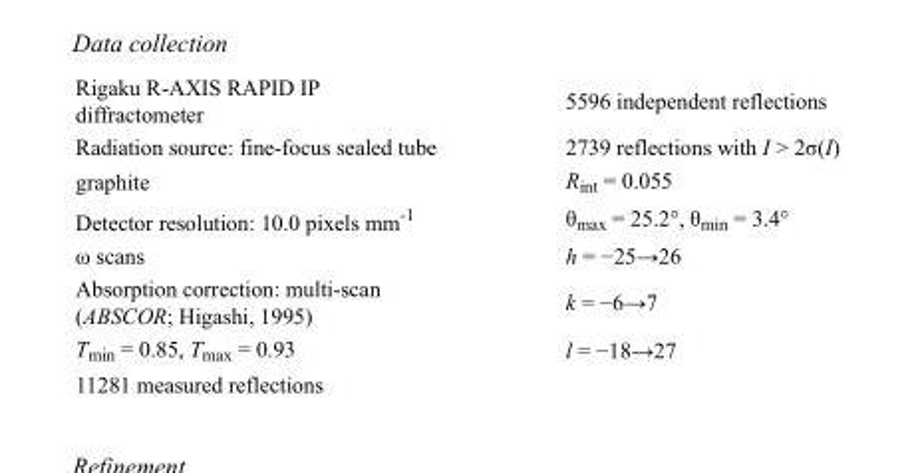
<table><tbody><tr><td>Rigaku R-AXIS RAPID IP diffractometer</td><td>5596 independent reflections</td></tr><tr><td>Radiation source: fine-focus sealed tube</td><td>2739 reflections with I &gt; 2σ(I)</td></tr><tr><td>graphite</td><td>R<sub>int</sub> = 0.055</td></tr><tr><td>Detector resolution: 10.0 pixels mm<sup>-1</sup></td><td>θ<sub>max</sub> = 25.2°, θ<sub>min</sub> = 3.4°</td></tr><tr><td>ω scans</td><td>h = −25→26</td></tr><tr><td>Absorption correction: multi-scan (ABSCOR; Higashi, 1995)</td><td>k = −6→7</td></tr><tr><td>T<sub>min</sub> = 0.85, T<sub>max</sub> = 0.93</td><td>l = −18→27</td></tr><tr><td>11281 measured reflections</td><td></td></tr></tbody></table>